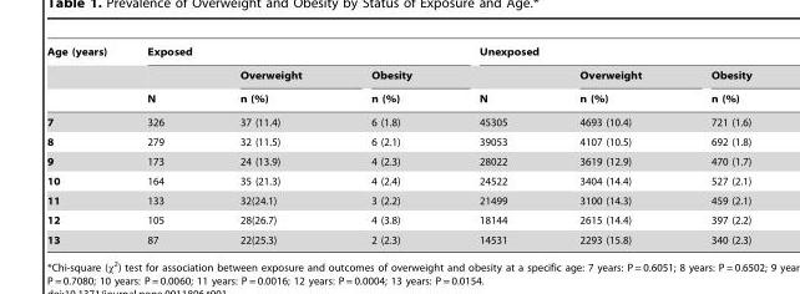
<table><thead><tr><td rowspan="3">Age (years)</td><td colspan="3">Exposed</td><td colspan="3">Unexposed</td></tr><tr><td rowspan="2">N</td><td rowspan="2">Overweight n (%)</td><td rowspan="2">Obesity n (%)</td><td rowspan="2">N</td><td rowspan="2">Overweight n (%)</td><td rowspan="2">Obesity n (%)</td></tr><tr></tr></thead><tbody><tr><td>7</td><td>326</td><td>37 (11.4)</td><td>6 (1.8)</td><td>45305</td><td>4693 (10.4)</td><td>721 (1.6)</td></tr><tr><td>8</td><td>279</td><td>32 (11.5)</td><td>6 (2.1)</td><td>39053</td><td>4107 (10.5)</td><td>692 (1.8)</td></tr><tr><td>9</td><td>173</td><td>24 (13.9)</td><td>4 (2.3)</td><td>28022</td><td>3619 (12.9)</td><td>470 (1.7)</td></tr><tr><td>10</td><td>164</td><td>35 (21.3)</td><td>4 (2.4)</td><td>24522</td><td>3404 (14.4)</td><td>527 (2.1)</td></tr><tr><td>11</td><td>133</td><td>32(24.1)</td><td>3 (2.2)</td><td>21499</td><td>3100 (14.3)</td><td>459 (2.1)</td></tr><tr><td>12</td><td>105</td><td>28(26.7)</td><td>4 (3.8)</td><td>18144</td><td>2615 (14.4)</td><td>397 (2.2)</td></tr><tr><td>13</td><td>87</td><td>22(25.3)</td><td>2 (2.3)</td><td>14531</td><td>2293 (15.8)</td><td>340 (2.3)</td></tr></tbody></table>